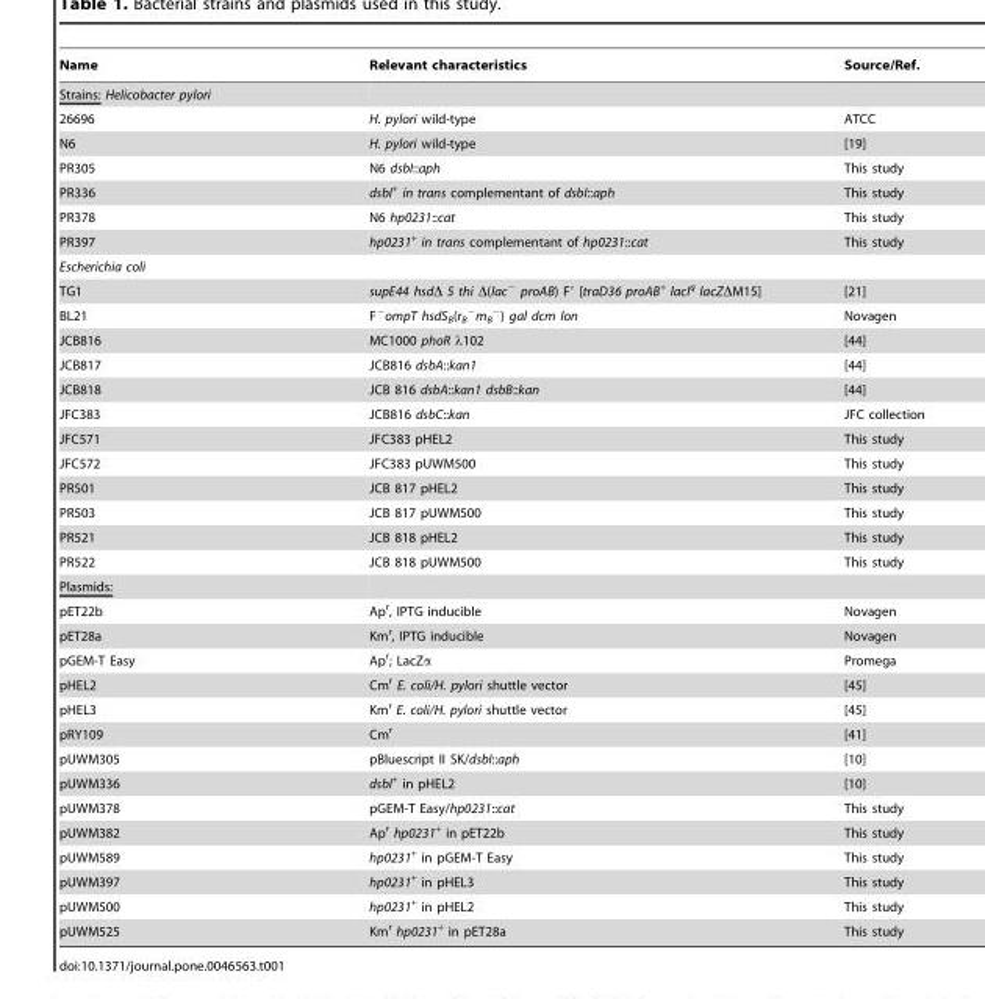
<table><thead><tr><td>Name</td><td>Relevant characteristics</td><td>Source/Ref.</td></tr></thead><tbody><tr><td colspan="3">Strains: Helicobacter pylori</td></tr><tr><td>26696</td><td>H. pylori wild-type</td><td>ATCC</td></tr><tr><td>N6</td><td>H. pylori wild-type</td><td>[19]</td></tr><tr><td>PR305</td><td>N6 dsbI::aph</td><td>This study</td></tr><tr><td>PR336</td><td>dsbI<sup>+</sup> in trans complementant of dsbI::aph</td><td>This study</td></tr><tr><td>PR378</td><td>N6 hp0231::cat</td><td>This study</td></tr><tr><td>PR397</td><td>hp0231<sup>+</sup> in trans complementant of hp0231::cat</td><td>This study</td></tr><tr><td colspan="3">Escherichia coli</td></tr><tr><td>TG1</td><td>supE44 hsdΔ 5 thi Δ(lac<sup>−</sup> proAB) F′ [traD36 proAB<sup>+</sup> lacI<sup>q</sup> lacZΔM15]</td><td>[21]</td></tr><tr><td>BL21</td><td>F<sup>−</sup>ompT hsdS<sub>B</sub>(r<sub>B</sub> <sup>−</sup>m<sub>B</sub> <sup>−</sup>) gal dcm lon</td><td>Novagen</td></tr><tr><td>JCB816</td><td>MC1000 phoR λ102</td><td>[44]</td></tr><tr><td>JCB817</td><td>JCB816 dsbA::kan1</td><td>[44]</td></tr><tr><td>JCB818</td><td>JCB 816 dsbA::kan1 dsbB::kan</td><td>[44]</td></tr><tr><td>JFC383</td><td>JCB816 dsbC::kan</td><td>JFC collection</td></tr><tr><td>JFC571</td><td>JFC383 pHEL2</td><td>This study</td></tr><tr><td>JFC572</td><td>JFC383 pUWM500</td><td>This study</td></tr><tr><td>PR501</td><td>JCB 817 pHEL2</td><td>This study</td></tr><tr><td>PR503</td><td>JCB 817 pUWM500</td><td>This study</td></tr><tr><td>PR521</td><td>JCB 818 pHEL2</td><td>This study</td></tr><tr><td>PR522</td><td>JCB 818 pUWM500</td><td>This study</td></tr><tr><td colspan="3">Plasmids:</td></tr><tr><td>pET22b</td><td>Ap<sup>r</sup>, IPTG inducible</td><td>Novagen</td></tr><tr><td>pET28a</td><td>Km<sup>r</sup>, IPTG inducible</td><td>Novagen</td></tr><tr><td>pGEM-T Easy</td><td>Ap<sup>r</sup>; LacZα</td><td>Promega</td></tr><tr><td>pHEL2</td><td>Cm<sup>r</sup> E. coli/H. pylori shuttle vector</td><td>[45]</td></tr><tr><td>pHEL3</td><td>Km<sup>r</sup> E. coli/H. pylori shuttle vector</td><td>[45]</td></tr><tr><td>pRY109</td><td>Cm<sup>r</sup></td><td>[41]</td></tr><tr><td>pUWM305</td><td>pBluescript II SK/dsbI::aph</td><td>[10]</td></tr><tr><td>pUWM336</td><td>dsbI<sup>+</sup> in pHEL2</td><td>[10]</td></tr><tr><td>pUWM378</td><td>pGEM-T Easy/hp0231::cat</td><td>This study</td></tr><tr><td>pUWM382</td><td>Ap<sup>r</sup> hp0231<sup>+</sup> in pET22b</td><td>This study</td></tr><tr><td>pUWM589</td><td>hp0231<sup>+</sup> in pGEM-T Easy</td><td>This study</td></tr><tr><td>pUWM397</td><td>hp0231<sup>+</sup> in pHEL3</td><td>This study</td></tr><tr><td>pUWM500</td><td>hp0231<sup>+</sup> in pHEL2</td><td>This study</td></tr><tr><td>pUWM525</td><td>Km<sup>r</sup> hp0231<sup>+</sup> in pET28a</td><td>This study</td></tr></tbody></table>